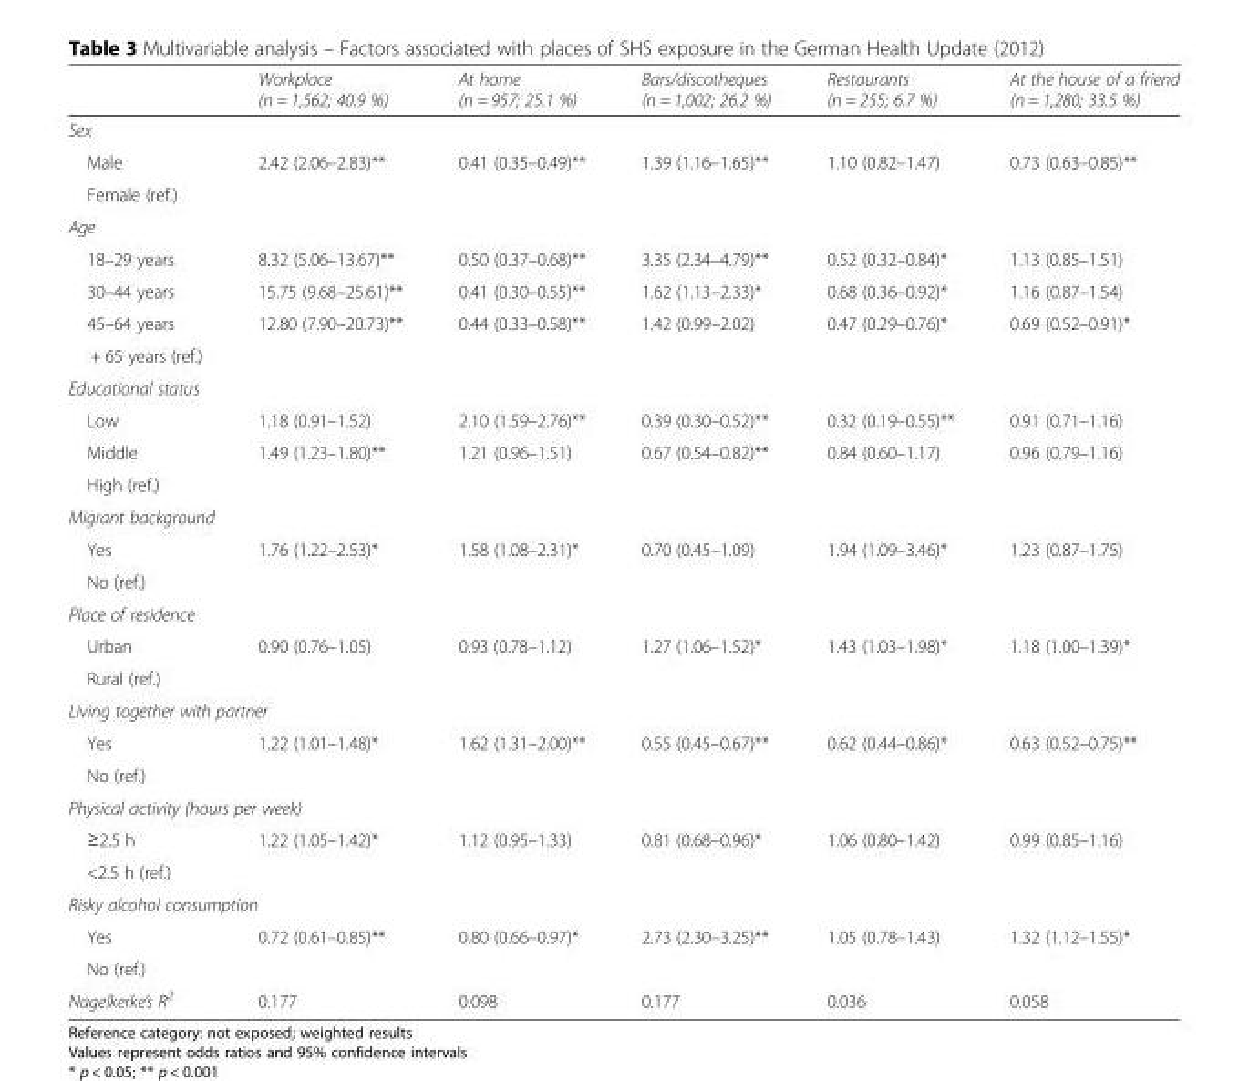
<table><thead><tr><td></td><td>Workplace (n = 1,562; 40.9 %)</td><td>At home (n = 957; 25.1 %)</td><td>Bars/discotheques (n = 1,002; 26.2 %)</td><td>Restaurants (n = 255; 6.7 %)</td><td>At the house of a friend (n = 1,280; 33.5 %)</td></tr></thead><tbody><tr><td colspan="6">Sex</td></tr><tr><td>Male</td><td>2.42 (2.06–2.83)**</td><td>0.41 (0.35–0.49)**</td><td>1.39 (1.16–1.65)**</td><td>1.10 (0.82–1.47)</td><td>0.73 (0.63–0.85)**</td></tr><tr><td colspan="6">Female (ref.)</td></tr><tr><td colspan="6">Age</td></tr><tr><td>18–29 years</td><td>8.32 (5.06–13.67)**</td><td>0.50 (0.37–0.68)**</td><td>3.35 (2.34–4.79)**</td><td>0.52 (0.32–0.84)*</td><td>1.13 (0.85–1.51)</td></tr><tr><td>30–44 years</td><td>15.75 (9.68–25.61)**</td><td>0.41 (0.30–0.55)**</td><td>1.62 (1.13–2.33)*</td><td>0.68 (0.36–0.92)*</td><td>1.16 (0.87–1.54)</td></tr><tr><td>45–64 years</td><td>12.80 (7.90–20.73)**</td><td>0.44 (0.33–0.58)**</td><td>1.42 (0.99–2.02)</td><td>0.47 (0.29–0.76)*</td><td>0.69 (0.52–0.91)*</td></tr><tr><td colspan="6">+ 65 years (ref.)</td></tr><tr><td colspan="6">Educational status</td></tr><tr><td>Low</td><td>1.18 (0.91–1.52)</td><td>2.10 (1.59–2.76)**</td><td>0.39 (0.30–0.52)**</td><td>0.32 (0.19–0.55)**</td><td>0.91 (0.71–1.16)</td></tr><tr><td>Middle</td><td>1.49 (1.23–1.80)**</td><td>1.21 (0.96–1.51)</td><td>0.67 (0.54–0.82)**</td><td>0.84 (0.60–1.17)</td><td>0.96 (0.79–1.16)</td></tr><tr><td colspan="6">High (ref.)</td></tr><tr><td colspan="6">Migrant background</td></tr><tr><td>Yes</td><td>1.76 (1.22–2.53)*</td><td>1.58 (1.08–2.31)*</td><td>0.70 (0.45–1.09)</td><td>1.94 (1.09–3.46)*</td><td>1.23 (0.87–1.75)</td></tr><tr><td colspan="6">No (ref.)</td></tr><tr><td colspan="6">Place of residence</td></tr><tr><td>Urban</td><td>0.90 (0.76–1.05)</td><td>0.93 (0.78–1.12)</td><td>1.27 (1.06–1.52)*</td><td>1.43 (1.03–1.98)*</td><td>1.18 (1.00–1.39)*</td></tr><tr><td colspan="6">Rural (ref.)</td></tr><tr><td colspan="6">Living together with partner</td></tr><tr><td>Yes</td><td>1.22 (1.01–1.48)*</td><td>1.62 (1.31–2.00)**</td><td>0.55 (0.45–0.67)**</td><td>0.62 (0.44–0.86)*</td><td>0.63 (0.52–0.75)**</td></tr><tr><td colspan="6">No (ref.)</td></tr><tr><td colspan="6">Physical activity (hours per week)</td></tr><tr><td>≥2.5 h</td><td>1.22 (1.05–1.42)*</td><td>1.12 (0.95–1.33)</td><td>0.81 (0.68–0.96)*</td><td>1.06 (0.80–1.42)</td><td>0.99 (0.85–1.16)</td></tr><tr><td colspan="6">&lt;2.5 h (ref.)</td></tr><tr><td colspan="6">Risky alcohol consumption</td></tr><tr><td>Yes</td><td>0.72 (0.61–0.85)**</td><td>0.80 (0.66–0.97)*</td><td>2.73 (2.30–3.25)**</td><td>1.05 (0.78–1.43)</td><td>1.32 (1.12–1.55)*</td></tr><tr><td colspan="6">No (ref.)</td></tr><tr><td>Nagelkerke’s R<sup>2</sup></td><td>0.177</td><td>0.098</td><td>0.177</td><td>0.036</td><td>0.058</td></tr></tbody></table>